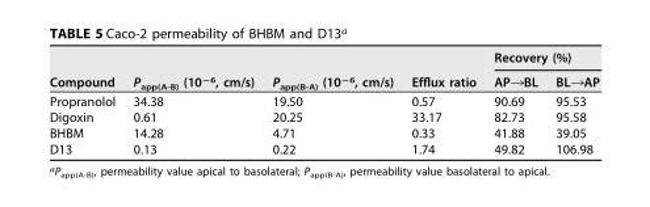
<table><thead><tr><td rowspan="2">Compound</td><td rowspan="2">P<sub>app(A-B)</sub> (10<sup>−6</sup>, cm/s)</td><td rowspan="2">P<sub>app(B-A)</sub> (10<sup>−6</sup>, cm/s)</td><td rowspan="2">Efflux ratio</td><td colspan="2">Recovery (%)</td></tr><tr><td>AP→BL</td><td>BL→AP</td></tr></thead><tbody><tr><td>Propranolol</td><td>34.38</td><td>19.50</td><td>0.57</td><td>90.69</td><td>95.53</td></tr><tr><td>Digoxin</td><td>0.61</td><td>20.25</td><td>33.17</td><td>82.73</td><td>95.58</td></tr><tr><td>BHBM</td><td>14.28</td><td>4.71</td><td>0.33</td><td>41.88</td><td>39.05</td></tr><tr><td>D13</td><td>0.13</td><td>0.22</td><td>1.74</td><td>49.82</td><td>106.98</td></tr></tbody></table>